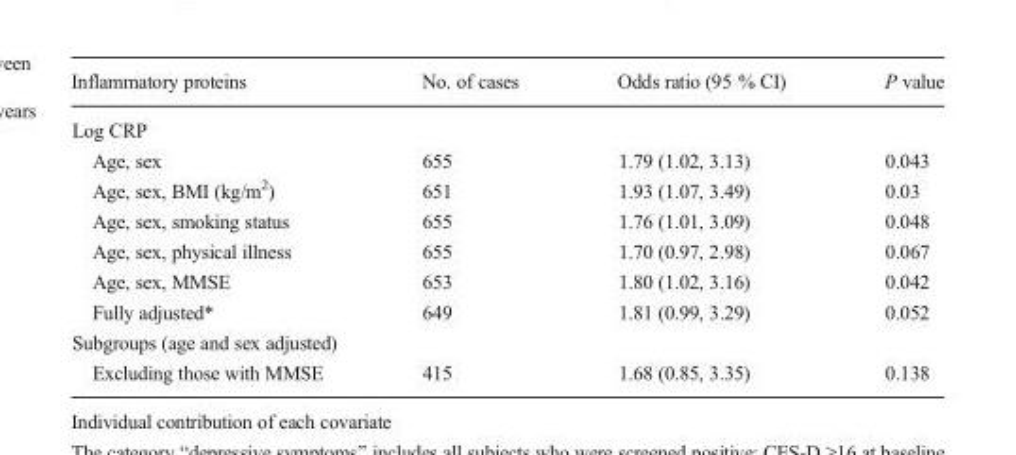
<table><thead><tr><td>Inflammatory proteins</td><td>No. of cases</td><td>Odds ratio (95 % CI)</td><td>P value</td></tr></thead><tbody><tr><td colspan="4">Log CRP</td></tr><tr><td>Age, sex</td><td>655</td><td>1.79 (1.02, 3.13)</td><td>0.043</td></tr><tr><td>Age, sex, BMI (kg/m<sup>2</sup>)</td><td>651</td><td>1.93 (1.07, 3.49)</td><td>0.03</td></tr><tr><td>Age, sex, smoking status</td><td>655</td><td>1.76 (1.01, 3.09)</td><td>0.048</td></tr><tr><td>Age, sex, physical illness</td><td>655</td><td>1.70 (0.97, 2.98)</td><td>0.067</td></tr><tr><td>Age, sex, MMSE</td><td>653</td><td>1.80 (1.02, 3.16)</td><td>0.042</td></tr><tr><td>Fully adjusted*</td><td>649</td><td>1.81 (0.99, 3.29)</td><td>0.052</td></tr><tr><td colspan="4">Subgroups (age and sex adjusted)</td></tr><tr><td>Excluding those with MMSE</td><td>415</td><td>1.68 (0.85, 3.35)</td><td>0.138</td></tr></tbody></table>